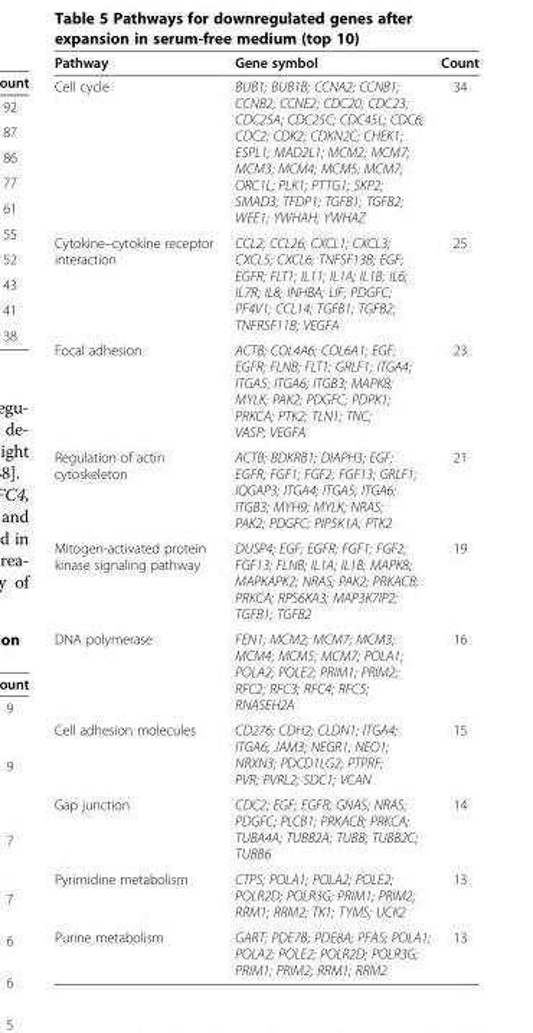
<table><thead><tr><td>Pathway</td><td>Gene symbol</td><td>Count</td></tr></thead><tbody><tr><td>Cell cycle</td><td>BUB1; BUB1B; CCNA2; CCNB1; CCNB2; CCNE2; CDC20; CDC23; CDC25A; CDC25C; CDC45L; CDC6; CDC2; CDK2; CDKN2C; CHEK1; ESPL1; MAD2L1; MCM2; MCM7; MCM3; MCM4; MCM5; MCM7; ORC1L; PLK1; PTTG1; SKP2; SMAD3; TFDP1; TGFB1; TGFB2; WEE1; YWHAH; YWHAZ</td><td>34</td></tr><tr><td>Cytokine–cytokine receptor interaction</td><td>CCL2; CCL26; CXCL1; CXCL3; CXCL5; CXCL6; TNFSF13B; EGF; EGFR; FLT1; IL11; IL1A; IL1B; IL6; IL7R; IL8; INHBA; LIF; PDGFC; PF4V1; CCL14; TGFB1; TGFB2; TNFRSF11B; VEGFA</td><td>25</td></tr><tr><td>Focal adhesion</td><td>ACTB; COL4A6; COL6A1; EGF; EGFR; FLNB; FLT1; GRLF1; ITGA4; ITGA5; ITGA6; ITGB3; MAPK8; MYLK; PAK2; PDGFC; PDPK1; PRKCA; PTK2; TLN1; TNC; VASP; VEGFA</td><td>23</td></tr><tr><td>Regulation of actin cytoskeleton</td><td>ACTB; BDKRB1; DIAPH3; EGF; EGFR; FGF1; FGF2; FGF13; GRLF1; IQGAP3; ITGA4; ITGA5; ITGA6; ITGB3; MYH9; MYLK; NRAS; PAK2; PDGFC; PIP5K1A; PTK2</td><td>21</td></tr><tr><td>Mitogen-activated protein kinase signaling pathway</td><td>DUSP4; EGF; EGFR; FGF1; FGF2; FGF13; FLNB; IL1A; IL1B; MAPK8; MAPKAPK2; NRAS; PAK2; PRKACB; PRKCA; RPS6KA3; MAP3K7IP2; TGFB1; TGFB2</td><td>19</td></tr><tr><td>DNA polymerase</td><td>FEN1; MCM2; MCM7; MCM3; MCM4; MCM5; MCM7; POLA1; POLA2; POLE2; PRIM1; PRIM2; RFC2; RFC3; RFC4; RFC5; RNASEH2A</td><td>16</td></tr><tr><td>Cell adhesion molecules</td><td>CD276; CDH2; CLDN1; ITGA4; ITGA6; JAM3; NEGR1; NEO1; NRXN3; PDCD1LG2; PTPRF; PVR; PVRL2; SDC1; VCAN</td><td>15</td></tr><tr><td>Gap junction</td><td>CDC2; EGF; EGFR; GNAS; NRAS; PDGFC; PLCB1; PRKACB; PRKCA; TUBA4A; TUBB2A; TUBB; TUBB2C; TUBB6</td><td>14</td></tr><tr><td>Pyrimidine metabolism</td><td>CTPS; POLA1; POLA2; POLE2; POLR2D; POLR3G; PRIM1; PRIM2; RRM1; RRM2; TK1; TYMS; UCK2</td><td>13</td></tr><tr><td>Purine metabolism</td><td>GART; PDE7B; PDE8A; PFAS; POLA1; POLA2; POLE2; POLR2D; POLR3G; PRIM1; PRIM2; RRM1; RRM2</td><td>13</td></tr></tbody></table>